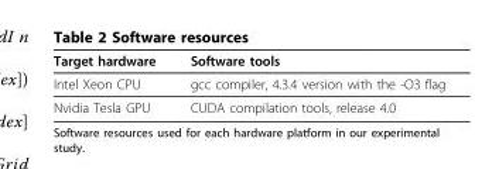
<table><thead><tr><td>Target hardware</td><td>Software tools</td></tr></thead><tbody><tr><td>Intel Xeon CPU</td><td>gcc compiler, 4.3.4 version with the -O3 flag</td></tr><tr><td>Nvidia Tesla GPU</td><td>CUDA compilation tools, release 4.0</td></tr></tbody></table>